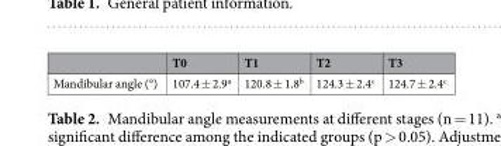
<table><thead><tr><td></td><td>T0</td><td>T1</td><td>T2</td><td>T3</td></tr></thead><tbody><tr><td>Mandibular angle (°)</td><td>107.4 ± 2.9<sup>a</sup></td><td>120.8 ± 1.8<sup>b</sup></td><td>124.3 ± 2.4<sup>c</sup></td><td>124.7 ± 2.4<sup>c</sup></td></tr></tbody></table>